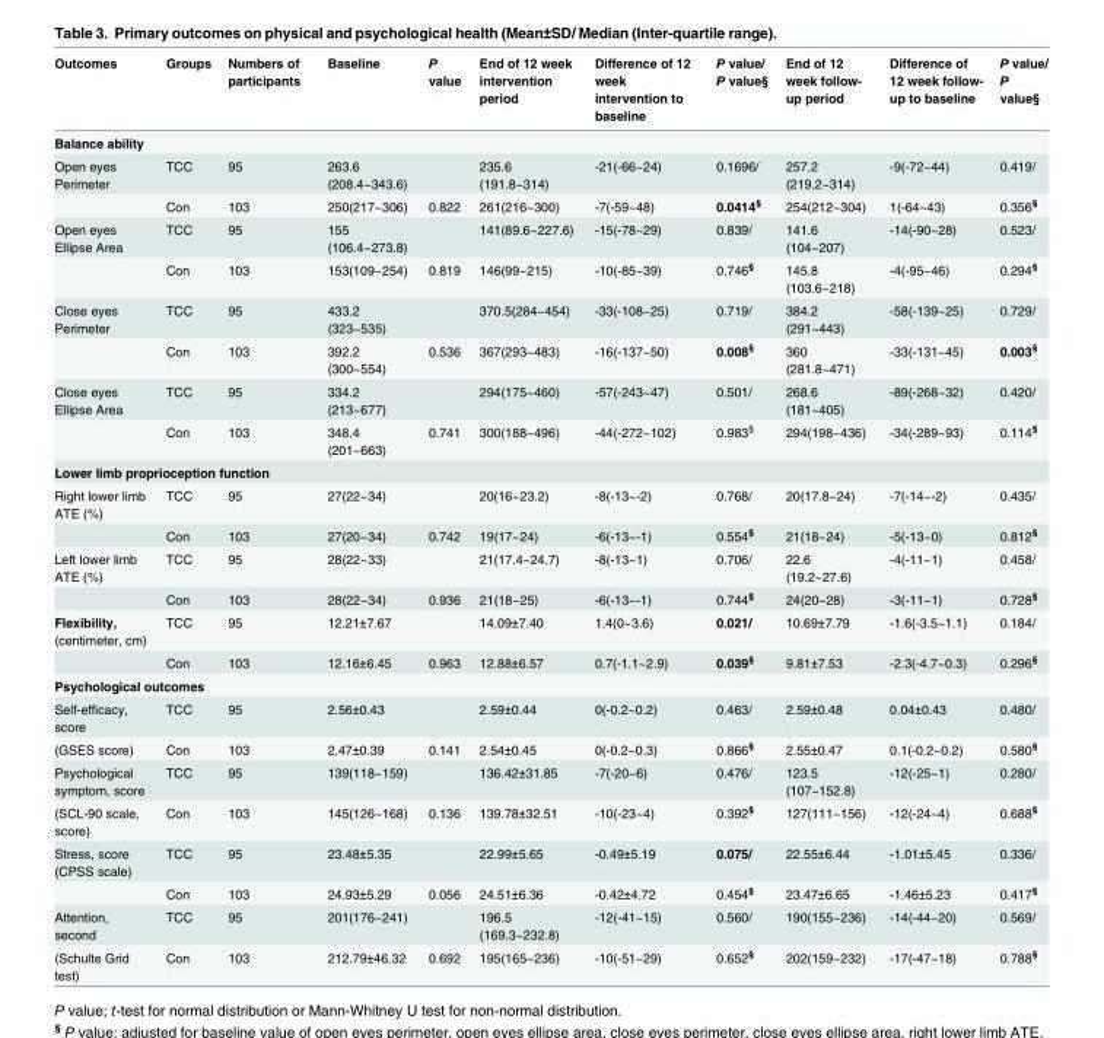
<table><thead><tr><td>Outcomes</td><td>Groups</td><td>Numbers of participants</td><td>Baseline</td><td>P value</td><td>End of 12 week intervention period</td><td>Difference of 12 week intervention to baseline</td><td>P value/ P value<sup>§</sup></td><td>End of 12 week follow- up period</td><td>Difference of 12 week follow- up to baseline</td><td>P value/ P value<sup>§</sup></td></tr></thead><tbody><tr><td colspan="11">Balance ability</td></tr><tr><td rowspan="2">Open eyes Perimeter</td><td>TCC</td><td>95</td><td>263.6 (208.4~343.6)</td><td></td><td>235.6 (191.8~314)</td><td>-21(-66~24)</td><td>0.1696/</td><td>257.2 (219.2~314)</td><td>-9(-72~44)</td><td>0.419/</td></tr><tr><td>Con</td><td>103</td><td>250(217~306)</td><td>0.822</td><td>261(216~300)</td><td>-7(-59~48)</td><td>0.0414<sup>§</sup></td><td>254(212~304)</td><td>1(-64~43)</td><td>0.356<sup>§</sup></td></tr><tr><td rowspan="2">Open eyes Ellipse Area</td><td>TCC</td><td>95</td><td>155 (106.4~273.8)</td><td></td><td>141(89.6~227.6)</td><td>-15(-78~29)</td><td>0.839/</td><td>141.6 (104~207)</td><td>-14(-90~28)</td><td>0.523/</td></tr><tr><td>Con</td><td>103</td><td>153(109~254)</td><td>0.819</td><td>146(99~215)</td><td>-10(-85~39)</td><td>0.746<sup>§</sup></td><td>145.8 (103.6~218)</td><td>-4(-95~46)</td><td>0.294<sup>§</sup></td></tr><tr><td rowspan="2">Close eyes Perimeter</td><td>TCC</td><td>95</td><td>433.2 (323~535)</td><td></td><td>370.5(284~454)</td><td>-33(-108~25)</td><td>0.719/</td><td>384.2 (291~443)</td><td>-58(-139~25)</td><td>0.729/</td></tr><tr><td>Con</td><td>103</td><td>392.2 (300~554)</td><td>0.536</td><td>367(293~483)</td><td>-16(-137~50)</td><td>0.008<sup>§</sup></td><td>360 (281.8~471)</td><td>-33(-131~45)</td><td>0.003<sup>§</sup></td></tr><tr><td rowspan="2">Close eyes Ellipse Area</td><td>TCC</td><td>95</td><td>334.2 (213~677)</td><td></td><td>294(175~460)</td><td>-57(-243~47)</td><td>0.501/</td><td>268.6 (181~405)</td><td>-89(-268~32)</td><td>0.420/</td></tr><tr><td>Con</td><td>103</td><td>348.4 (201~663)</td><td>0.741</td><td>300(188~496)</td><td>-44(-272~102)</td><td>0.983<sup>§</sup></td><td>294(198~436)</td><td>-34(-289~93)</td><td>0.114<sup>§</sup></td></tr><tr><td colspan="11">Lower limb proprioception function</td></tr><tr><td rowspan="2">Right lower limb ATE (%)</td><td>TCC</td><td>95</td><td>27(22~34)</td><td></td><td>20(16~23.2)</td><td>-8(-13~-2)</td><td>0.768/</td><td>20(17.8~24)</td><td>-7(-14~-2)</td><td>0.435/</td></tr><tr><td>Con</td><td>103</td><td>27(20~34)</td><td>0.742</td><td>19(17~24)</td><td>-6(-13~-1)</td><td>0.554<sup>§</sup></td><td>21(18~24)</td><td>-5(-13~0)</td><td>0.812<sup>§</sup></td></tr><tr><td rowspan="2">Left lower limb ATE (%)</td><td>TCC</td><td>95</td><td>28(22~33)</td><td></td><td>21(17.4~24.7)</td><td>-8(-13~1)</td><td>0.706/</td><td>22.6 (19.2~27.6)</td><td>-4(-11~1)</td><td>0.458/</td></tr><tr><td>Con</td><td>103</td><td>28(22~34)</td><td>0.936</td><td>21(18~25)</td><td>-6(-13~-1)</td><td>0.744<sup>§</sup></td><td>24(20~28)</td><td>-3(-11~1)</td><td>0.728<sup>§</sup></td></tr><tr><td rowspan="2">Flexibility, (centimeter, cm)</td><td>TCC</td><td>95</td><td>12.21±7.67</td><td></td><td>14.09±7.40</td><td>1.4(0~3.6)</td><td>0.021/</td><td>10.69±7.79</td><td>-1.6(-3.5~1.1)</td><td>0.184/</td></tr><tr><td>Con</td><td>103</td><td>12.16±6.45</td><td>0.963</td><td>12.88±6.57</td><td>0.7(-1.1~2.9)</td><td>0.039<sup>§</sup></td><td>9.81±7.53</td><td>-2.3(-4.7~0.3)</td><td>0.296<sup>§</sup></td></tr><tr><td colspan="11">Psychological outcomes</td></tr><tr><td>Self-efficacy, score</td><td>TCC</td><td>95</td><td>2.56±0.43</td><td></td><td>2.59±0.44</td><td>0(-0.2~0.2)</td><td>0.463/</td><td>2.59±0.48</td><td>0.04±0.43</td><td>0.480/</td></tr><tr><td>(GSES score)</td><td>Con</td><td>103</td><td>2.47±0.39</td><td>0.141</td><td>2.54±0.45</td><td>0(-0.2~0.3)</td><td>0.866<sup>§</sup></td><td>2.55±0.47</td><td>0.1(-0.2~0.2)</td><td>0.580<sup>§</sup></td></tr><tr><td>Psychological symptom, score</td><td>TCC</td><td>95</td><td>139(118~159)</td><td></td><td>136.42±31.85</td><td>-7(-20~6)</td><td>0.476/</td><td>123.5 (107~152.8)</td><td>-12(-25~1)</td><td>0.280/</td></tr><tr><td>(SCL-90 scale, score)</td><td>Con</td><td>103</td><td>145(126~168)</td><td>0.136</td><td>139.78±32.51</td><td>-10(-23~4)</td><td>0.392<sup>§</sup></td><td>127(111~156)</td><td>-12(-24~4)</td><td>0.688<sup>§</sup></td></tr><tr><td rowspan="2">Stress, score (CPSS scale)</td><td>TCC</td><td>95</td><td>23.48±5.35</td><td></td><td>22.99±5.65</td><td>-0.49±5.19</td><td>0.075/</td><td>22.55±6.44</td><td>-1.01±5.45</td><td>0.336/</td></tr><tr><td>Con</td><td>103</td><td>24.93±5.29</td><td>0.056</td><td>24.51±6.36</td><td>-0.42±4.72</td><td>0.454<sup>§</sup></td><td>23.47±6.65</td><td>-1.46±5.23</td><td>0.417<sup>§</sup></td></tr><tr><td>Attention, second</td><td>TCC</td><td>95</td><td>201(176~241)</td><td></td><td>196.5 (169.3~232.8)</td><td>-12(-41~15)</td><td>0.560/</td><td>190(155~236)</td><td>-14(-44~20)</td><td>0.569/</td></tr><tr><td>(Schulte Grid test)</td><td>Con</td><td>103</td><td>212.79±46.32</td><td>0.692</td><td>195(165~236)</td><td>-10(-51~29)</td><td>0.652<sup>§</sup></td><td>202(159~232)</td><td>-17(-47~18)</td><td>0.788<sup>§</sup></td></tr></tbody></table>